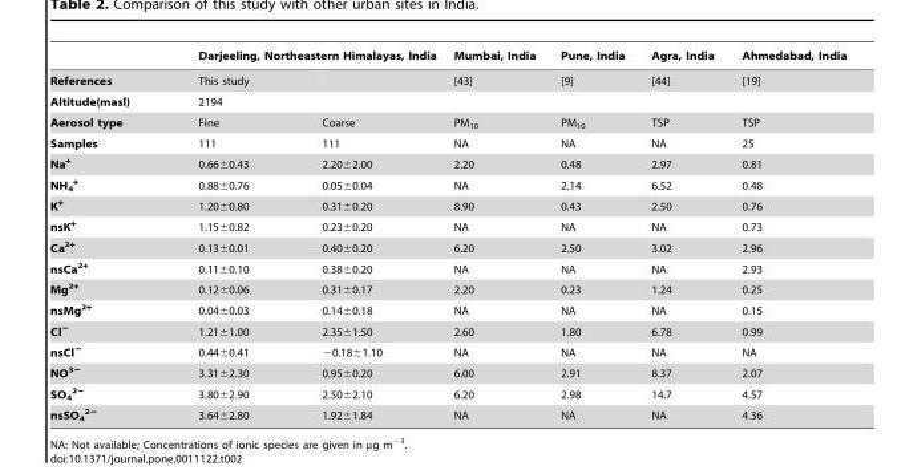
<table><thead><tr><td rowspan="2">References</td><td colspan="2">Darjeeling, Northeastern Himalayas, India</td><td rowspan="2">Mumbai, India [43]</td><td rowspan="2">Pune, India [9]</td><td rowspan="2">Agra, India [44]</td><td rowspan="2">Ahmedabad, India [19]</td></tr><tr><td>This study</td><td></td></tr></thead><tbody><tr><td>Altitude(masl)</td><td>2194</td><td></td><td></td><td></td><td></td><td></td></tr><tr><td>Aerosol type</td><td>Fine</td><td>Coarse</td><td>PM<sub>10</sub></td><td>PM<sub>10</sub></td><td>TSP</td><td>TSP</td></tr><tr><td>Samples</td><td>111</td><td>111</td><td>NA</td><td>NA</td><td>NA</td><td>25</td></tr><tr><td>Na<sup>+</sup></td><td>0.66±0.43</td><td>2.20±2.00</td><td>2.20</td><td>0.48</td><td>2.97</td><td>0.81</td></tr><tr><td>NH<sub>4</sub> <sup>+</sup></td><td>0.88±0.76</td><td>0.05±0.04</td><td>NA</td><td>2.14</td><td>6.52</td><td>0.48</td></tr><tr><td>K<sup>+</sup></td><td>1.20±0.80</td><td>0.31±0.20</td><td>8.90</td><td>0.43</td><td>2.50</td><td>0.76</td></tr><tr><td>nsK<sup>+</sup></td><td>1.15±0.82</td><td>0.23±0.20</td><td>NA</td><td>NA</td><td>NA</td><td>0.73</td></tr><tr><td>Ca<sup>2+</sup></td><td>0.13±0.01</td><td>0.40±0.20</td><td>6.20</td><td>2.50</td><td>3.02</td><td>2.96</td></tr><tr><td>nsCa<sup>2+</sup></td><td>0.11±0.10</td><td>0.38±0.20</td><td>NA</td><td>NA</td><td>NA</td><td>2.93</td></tr><tr><td>Mg<sup>2+</sup></td><td>0.12±0.06</td><td>0.31±0.17</td><td>2.20</td><td>0.23</td><td>1.24</td><td>0.25</td></tr><tr><td>nsMg<sup>2+</sup></td><td>0.04±0.03</td><td>0.14±0.18</td><td>NA</td><td>NA</td><td>NA</td><td>0.15</td></tr><tr><td>Cl<sup>−</sup></td><td>1.21±1.00</td><td>2.35±1.50</td><td>2.60</td><td>1.80</td><td>6.78</td><td>0.99</td></tr><tr><td>nsCl<sup>−</sup></td><td>0.44±0.41</td><td>−0.18±1.10</td><td>NA</td><td>NA</td><td>NA</td><td>NA</td></tr><tr><td>NO<sup>3−</sup></td><td>3.31±2.30</td><td>0.95±0.20</td><td>6.00</td><td>2.91</td><td>8.37</td><td>2.07</td></tr><tr><td>SO<sub>4</sub> <sup>2−</sup></td><td>3.80±2.90</td><td>2.50±2.10</td><td>6.20</td><td>2.98</td><td>14.7</td><td>4.57</td></tr><tr><td>nsSO<sub>4</sub> <sup>2−</sup></td><td>3.64±2.80</td><td>1.92±1.84</td><td>NA</td><td>NA</td><td>NA</td><td>4.36</td></tr></tbody></table>